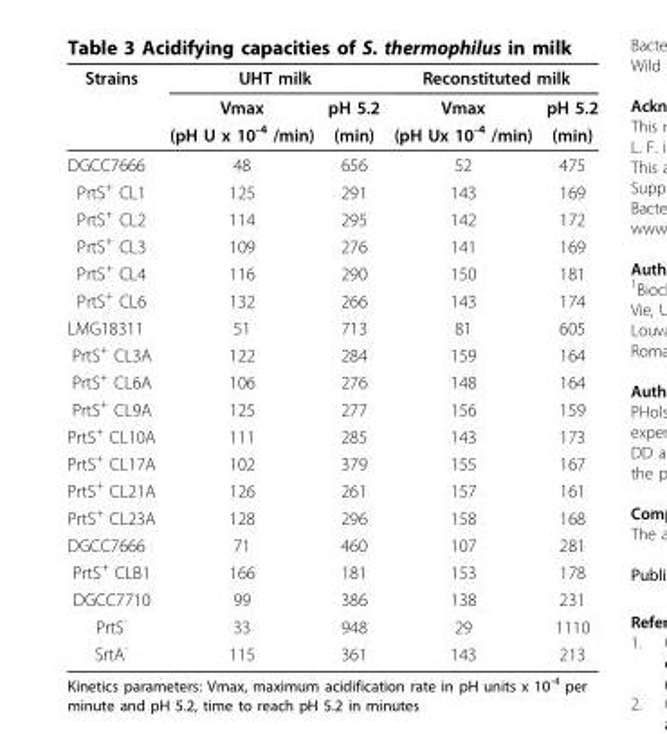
<table><thead><tr><td rowspan="3">Strains</td><td colspan="2">UHT milk</td><td colspan="2">Reconstituted milk</td></tr><tr><td rowspan="2">Vmax (pH U x 10<sup>-4</sup> /min)</td><td rowspan="2">pH 5.2 (min)</td><td rowspan="2">Vmax (pH Ux 10<sup>-4</sup> /min)</td><td rowspan="2">pH 5.2 (min)</td></tr><tr></tr></thead><tbody><tr><td>DGCC7666</td><td>48</td><td>656</td><td>52</td><td>475</td></tr><tr><td>PrtS<sup>+</sup> CL1</td><td>125</td><td>291</td><td>143</td><td>169</td></tr><tr><td>PrtS<sup>+</sup> CL2</td><td>114</td><td>295</td><td>142</td><td>172</td></tr><tr><td>PrtS<sup>+</sup> CL3</td><td>109</td><td>276</td><td>141</td><td>169</td></tr><tr><td>PrtS<sup>+</sup> CL4</td><td>116</td><td>290</td><td>150</td><td>181</td></tr><tr><td>PrtS<sup>+</sup> CL6</td><td>132</td><td>266</td><td>143</td><td>174</td></tr><tr><td>LMG18311</td><td>51</td><td>713</td><td>81</td><td>605</td></tr><tr><td>PrtS<sup>+</sup> CL3A</td><td>122</td><td>284</td><td>159</td><td>164</td></tr><tr><td>PrtS<sup>+</sup> CL6A</td><td>106</td><td>276</td><td>148</td><td>164</td></tr><tr><td>PrtS<sup>+</sup> CL9A</td><td>125</td><td>277</td><td>156</td><td>159</td></tr><tr><td>PrtS<sup>+</sup> CL10A</td><td>111</td><td>285</td><td>143</td><td>173</td></tr><tr><td>PrtS<sup>+</sup> CL17A</td><td>102</td><td>379</td><td>155</td><td>167</td></tr><tr><td>PrtS<sup>+</sup> CL21A</td><td>126</td><td>261</td><td>157</td><td>161</td></tr><tr><td>PrtS<sup>+</sup> CL23A</td><td>128</td><td>296</td><td>158</td><td>168</td></tr><tr><td>DGCC7666</td><td>71</td><td>460</td><td>107</td><td>281</td></tr><tr><td>PrtS<sup>+</sup> CLB1</td><td>166</td><td>181</td><td>153</td><td>178</td></tr><tr><td>DGCC7710</td><td>99</td><td>386</td><td>138</td><td>231</td></tr><tr><td>PrtS<sup>-</sup></td><td>33</td><td>948</td><td>29</td><td>1110</td></tr><tr><td>SrtA<sup>-</sup></td><td>115</td><td>361</td><td>143</td><td>213</td></tr></tbody></table>